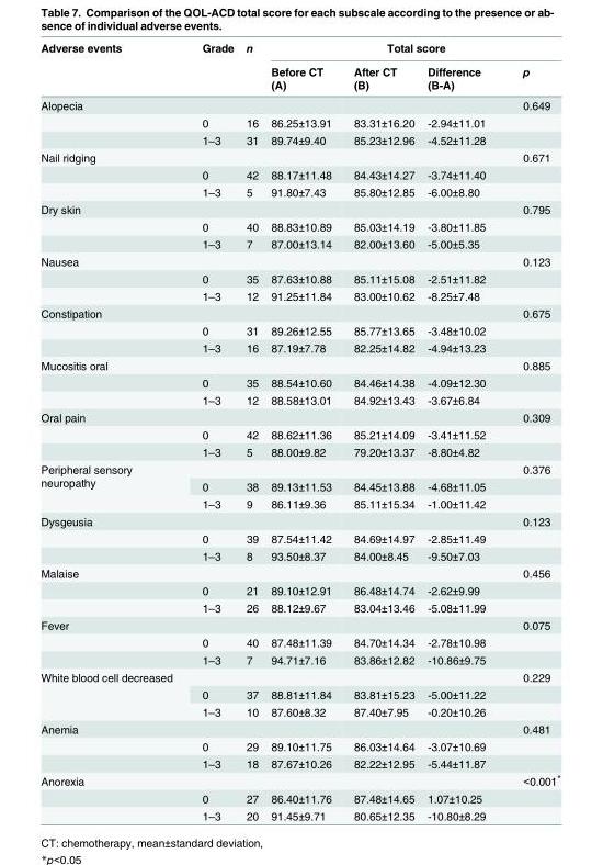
<table><thead><tr><td rowspan="2">Adverse events</td><td rowspan="2">Grade</td><td rowspan="2">n</td><td colspan="4">Total score</td></tr><tr><td>Before CT (A)</td><td>After CT (B)</td><td>Difference (B-A)</td><td>p</td></tr></thead><tbody><tr><td rowspan="3">Alopecia</td><td></td><td></td><td></td><td></td><td></td><td>0.649</td></tr><tr><td>0</td><td>16</td><td>86.25±13.91</td><td>83.31±16.20</td><td>-2.94±11.01</td><td></td></tr><tr><td>1–3</td><td>31</td><td>89.74±9.40</td><td>85.23±12.96</td><td>-4.52±11.28</td><td></td></tr><tr><td rowspan="3">Nail ridging</td><td></td><td></td><td></td><td></td><td></td><td>0.671</td></tr><tr><td>0</td><td>42</td><td>88.17±11.48</td><td>84.43±14.27</td><td>-3.74±11.40</td><td></td></tr><tr><td>1–3</td><td>5</td><td>91.80±7.43</td><td>85.80±12.85</td><td>-6.00±8.80</td><td></td></tr><tr><td rowspan="3">Dry skin</td><td></td><td></td><td></td><td></td><td></td><td>0.795</td></tr><tr><td>0</td><td>40</td><td>88.83±10.89</td><td>85.03±14.19</td><td>-3.80±11.85</td><td></td></tr><tr><td>1–3</td><td>7</td><td>87.00±13.14</td><td>82.00±13.60</td><td>-5.00±5.35</td><td></td></tr><tr><td rowspan="3">Nausea</td><td></td><td></td><td></td><td></td><td></td><td>0.123</td></tr><tr><td>0</td><td>35</td><td>87.63±10.88</td><td>85.11±15.08</td><td>-2.51±11.82</td><td></td></tr><tr><td>1–3</td><td>12</td><td>91.25±11.84</td><td>83.00±10.62</td><td>-8.25±7.48</td><td></td></tr><tr><td rowspan="3">Constipation</td><td></td><td></td><td></td><td></td><td></td><td>0.675</td></tr><tr><td>0</td><td>31</td><td>89.26±12.55</td><td>85.77±13.65</td><td>-3.48±10.02</td><td></td></tr><tr><td>1–3</td><td>16</td><td>87.19±7.78</td><td>82.25±14.82</td><td>-4.94±13.23</td><td></td></tr><tr><td rowspan="3">Mucositis oral</td><td></td><td></td><td></td><td></td><td></td><td>0.885</td></tr><tr><td>0</td><td>35</td><td>88.54±10.60</td><td>84.46±14.38</td><td>-4.09±12.30</td><td></td></tr><tr><td>1–3</td><td>12</td><td>88.58±13.01</td><td>84.92±13.43</td><td>-3.67±6.84</td><td></td></tr><tr><td rowspan="3">Oral pain</td><td></td><td></td><td></td><td></td><td></td><td>0.309</td></tr><tr><td>0</td><td>42</td><td>88.62±11.36</td><td>85.21±14.09</td><td>-3.41±11.52</td><td></td></tr><tr><td>1–3</td><td>5</td><td>88.00±9.82</td><td>79.20±13.37</td><td>-8.80±4.82</td><td></td></tr><tr><td rowspan="3">Peripheral sensory neuropathy</td><td></td><td></td><td></td><td></td><td></td><td>0.376</td></tr><tr><td>0</td><td>38</td><td>89.13±11.53</td><td>84.45±13.88</td><td>-4.68±11.05</td><td></td></tr><tr><td>1–3</td><td>9</td><td>86.11±9.36</td><td>85.11±15.34</td><td>-1.00±11.42</td><td></td></tr><tr><td rowspan="3">Dysgeusia</td><td></td><td></td><td></td><td></td><td></td><td>0.123</td></tr><tr><td>0</td><td>39</td><td>87.54±11.42</td><td>84.69±14.97</td><td>-2.85±11.49</td><td></td></tr><tr><td>1–3</td><td>8</td><td>93.50±8.37</td><td>84.00±8.45</td><td>-9.50±7.03</td><td></td></tr><tr><td rowspan="3">Malaise</td><td></td><td></td><td></td><td></td><td></td><td>0.456</td></tr><tr><td>0</td><td>21</td><td>89.10±12.91</td><td>86.48±14.74</td><td>-2.62±9.99</td><td></td></tr><tr><td>1–3</td><td>26</td><td>88.12±9.67</td><td>83.04±13.46</td><td>-5.08±11.99</td><td></td></tr><tr><td rowspan="3">Fever</td><td></td><td></td><td></td><td></td><td></td><td>0.075</td></tr><tr><td>0</td><td>40</td><td>87.48±11.39</td><td>84.70±14.34</td><td>-2.78±10.98</td><td></td></tr><tr><td>1–3</td><td>7</td><td>94.71±7.16</td><td>83.86±12.82</td><td>-10.86±9.75</td><td></td></tr><tr><td rowspan="3">White blood cell decreased</td><td></td><td></td><td></td><td></td><td></td><td>0.229</td></tr><tr><td>0</td><td>37</td><td>88.81±11.84</td><td>83.81±15.23</td><td>-5.00±11.22</td><td></td></tr><tr><td>1–3</td><td>10</td><td>87.60±8.32</td><td>87.40±7.95</td><td>-0.20±10.26</td><td></td></tr><tr><td rowspan="3">Anemia</td><td></td><td></td><td></td><td></td><td></td><td>0.481</td></tr><tr><td>0</td><td>29</td><td>89.10±11.75</td><td>86.03±14.64</td><td>-3.07±10.69</td><td></td></tr><tr><td>1–3</td><td>18</td><td>87.67±10.26</td><td>82.22±12.95</td><td>-5.44±11.87</td><td></td></tr><tr><td rowspan="3">Anorexia</td><td></td><td></td><td></td><td></td><td></td><td>&lt;0.001*</td></tr><tr><td>0</td><td>27</td><td>86.40±11.76</td><td>87.48±14.65</td><td>1.07±10.25</td><td></td></tr><tr><td>1–3</td><td>20</td><td>91.45±9.71</td><td>80.65±12.35</td><td>-10.80±8.29</td><td></td></tr></tbody></table>